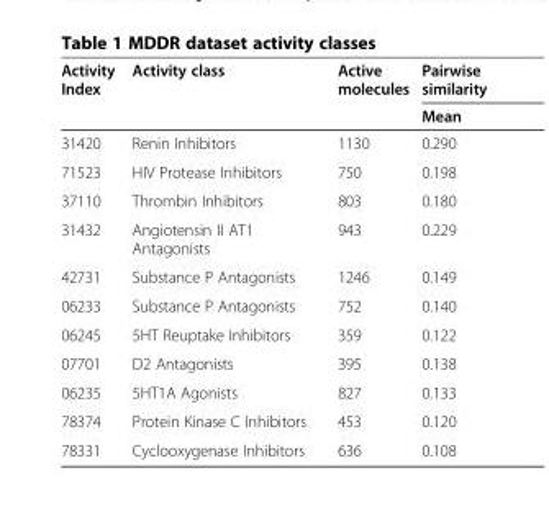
<table><thead><tr><td rowspan="2">Activity Index</td><td rowspan="2">Activity class</td><td rowspan="2">Active molecules</td><td rowspan="2">Pairwise similarity Mean</td></tr><tr></tr></thead><tbody><tr><td>31420</td><td>Renin Inhibitors</td><td>1130</td><td>0.290</td></tr><tr><td>71523</td><td>HIV Protease Inhibitors</td><td>750</td><td>0.198</td></tr><tr><td>37110</td><td>Thrombin Inhibitors</td><td>803</td><td>0.180</td></tr><tr><td>31432</td><td>Angiotensin II AT1 Antagonists</td><td>943</td><td>0.229</td></tr><tr><td>42731</td><td>Substance P Antagonists</td><td>1246</td><td>0.149</td></tr><tr><td>06233</td><td>Substance P Antagonists</td><td>752</td><td>0.140</td></tr><tr><td>06245</td><td>5HT Reuptake Inhibitors</td><td>359</td><td>0.122</td></tr><tr><td>07701</td><td>D2 Antagonists</td><td>395</td><td>0.138</td></tr><tr><td>06235</td><td>5HT1A Agonists</td><td>827</td><td>0.133</td></tr><tr><td>78374</td><td>Protein Kinase C Inhibitors</td><td>453</td><td>0.120</td></tr><tr><td>78331</td><td>Cyclooxygenase Inhibitors</td><td>636</td><td>0.108</td></tr></tbody></table>